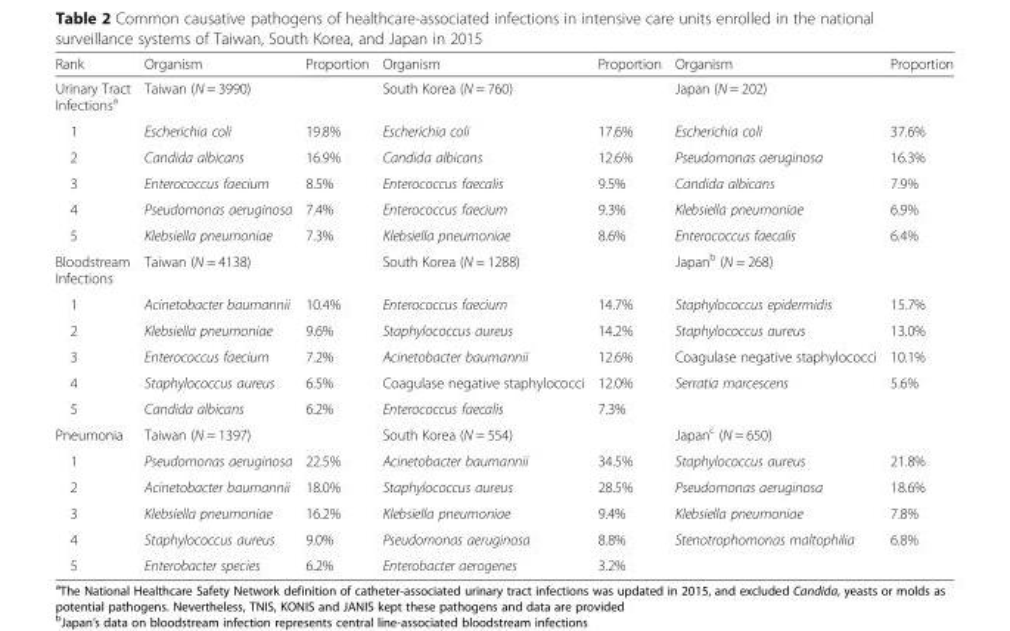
<table><thead><tr><td>Rank</td><td>Organism</td><td>Proportion</td><td>Organism</td><td>Proportion</td><td>Organism</td><td>Proportion</td></tr></thead><tbody><tr><td>Urinary Tract Infections<sup>a</sup></td><td colspan="2">Taiwan (N = 3990)</td><td colspan="2">South Korea (N = 760)</td><td colspan="2">Japan (N = 202)</td></tr><tr><td>1</td><td>Escherichia coli</td><td>19.8%</td><td>Escherichia coli</td><td>17.6%</td><td>Escherichia coli</td><td>37.6%</td></tr><tr><td>2</td><td>Candida albicans</td><td>16.9%</td><td>Candida albicans</td><td>12.6%</td><td>Pseudomonas aeruginosa</td><td>16.3%</td></tr><tr><td>3</td><td>Enterococcus faecium</td><td>8.5%</td><td>Enterococcus faecalis</td><td>9.5%</td><td>Candida albicans</td><td>7.9%</td></tr><tr><td>4</td><td>Pseudomonas aeruginosa</td><td>7.4%</td><td>Enterococcus faecium</td><td>9.3%</td><td>Klebsiella pneumoniae</td><td>6.9%</td></tr><tr><td>5</td><td>Klebsiella pneumoniae</td><td>7.3%</td><td>Klebsiella pneumoniae</td><td>8.6%</td><td>Enterococcus faecalis</td><td>6.4%</td></tr><tr><td>Bloodstream Infections</td><td colspan="2">Taiwan (N = 4138)</td><td colspan="2">South Korea (N = 1288)</td><td colspan="2">Japan<sup>b</sup> (N = 268)</td></tr><tr><td>1</td><td>Acinetobacter baumannii</td><td>10.4%</td><td>Enterococcus faecium</td><td>14.7%</td><td>Staphylococcus epidermidis</td><td>15.7%</td></tr><tr><td>2</td><td>Klebsiella pneumoniae</td><td>9.6%</td><td>Staphylococcus aureus</td><td>14.2%</td><td>Staphylococcus aureus</td><td>13.0%</td></tr><tr><td>3</td><td>Enterococcus faecium</td><td>7.2%</td><td>Acinetobacter baumannii</td><td>12.6%</td><td>Coagulase negative staphylococci</td><td>10.1%</td></tr><tr><td>4</td><td>Staphylococcus aureus</td><td>6.5%</td><td>Coagulase negative staphylococci</td><td>12.0%</td><td>Serratia marcescens</td><td>5.6%</td></tr><tr><td>5</td><td>Candida albicans</td><td>6.2%</td><td>Enterococcus faecalis</td><td>7.3%</td><td></td><td></td></tr><tr><td>Pneumonia</td><td colspan="2">Taiwan (N = 1397)</td><td colspan="2">South Korea (N = 554)</td><td colspan="2">Japan<sup>c</sup> (N = 650)</td></tr><tr><td>1</td><td>Pseudomonas aeruginosa</td><td>22.5%</td><td>Acinetobacter baumannii</td><td>34.5%</td><td>Staphylococcus aureus</td><td>21.8%</td></tr><tr><td>2</td><td>Acinetobacter baumannii</td><td>18.0%</td><td>Staphylococcus aureus</td><td>28.5%</td><td>Pseudomonas aeruginosa</td><td>18.6%</td></tr><tr><td>3</td><td>Klebsiella pneumoniae</td><td>16.2%</td><td>Klebsiella pneumoniae</td><td>9.4%</td><td>Klebsiella pneumoniae</td><td>7.8%</td></tr><tr><td>4</td><td>Staphylococcus aureus</td><td>9.0%</td><td>Pseudomonas aeruginosa</td><td>8.8%</td><td>Stenotrophomonas maltophilia</td><td>6.8%</td></tr><tr><td>5</td><td>Enterobacter species</td><td>6.2%</td><td>Enterobacter aerogenes</td><td>3.2%</td><td></td><td></td></tr></tbody></table>